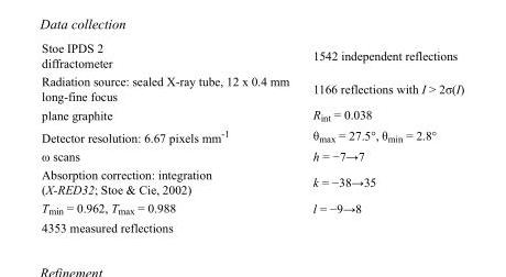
<table><tbody><tr><td>Stoe IPDS 2 diffractometer</td><td>1542 independent reflections</td></tr><tr><td>Radiation source: sealed X-ray tube, 12 x 0.4 mm long-fine focus</td><td>1166 reflections with I &gt; 2σ(I)</td></tr><tr><td>plane graphite</td><td>R<sub>int</sub> = 0.038</td></tr><tr><td>Detector resolution: 6.67 pixels mm<sup>-1</sup></td><td>θ<sub>max</sub> = 27.5°, θ<sub>min</sub> = 2.8°</td></tr><tr><td>ω scans</td><td>h = −7→7</td></tr><tr><td>Absorption correction: integration (X-RED32; Stoe &amp; Cie, 2002)</td><td>k = −38→35</td></tr><tr><td>T<sub>min</sub> = 0.962, T<sub>max</sub> = 0.988</td><td>l = −9→8</td></tr><tr><td>4353 measured reflections</td><td></td></tr></tbody></table>